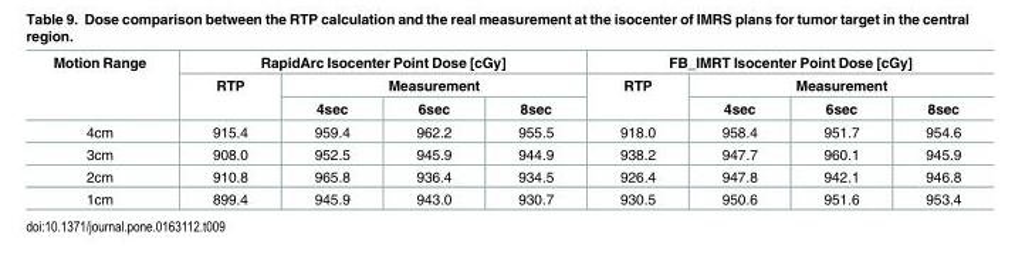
<table><thead><tr><td rowspan="3">Motion Range</td><td colspan="4">RapidArc Isocenter Point Dose [cGy]</td><td colspan="4">FB_IMRT Isocenter Point Dose [cGy]</td></tr><tr><td rowspan="2">RTP</td><td colspan="3">Measurement</td><td rowspan="2">RTP</td><td colspan="3">Measurement</td></tr><tr><td>4sec</td><td>6sec</td><td>8sec</td><td>4sec</td><td>6sec</td><td>8sec</td></tr></thead><tbody><tr><td>4cm</td><td>915.4</td><td>959.4</td><td>962.2</td><td>955.5</td><td>918.0</td><td>958.4</td><td>951.7</td><td>954.6</td></tr><tr><td>3cm</td><td>908.0</td><td>952.5</td><td>945.9</td><td>944.9</td><td>938.2</td><td>947.7</td><td>960.1</td><td>945.9</td></tr><tr><td>2cm</td><td>910.8</td><td>965.8</td><td>936.4</td><td>934.5</td><td>926.4</td><td>947.8</td><td>942.1</td><td>946.8</td></tr><tr><td>1cm</td><td>899.4</td><td>945.9</td><td>943.0</td><td>930.7</td><td>930.5</td><td>950.6</td><td>951.6</td><td>953.4</td></tr></tbody></table>